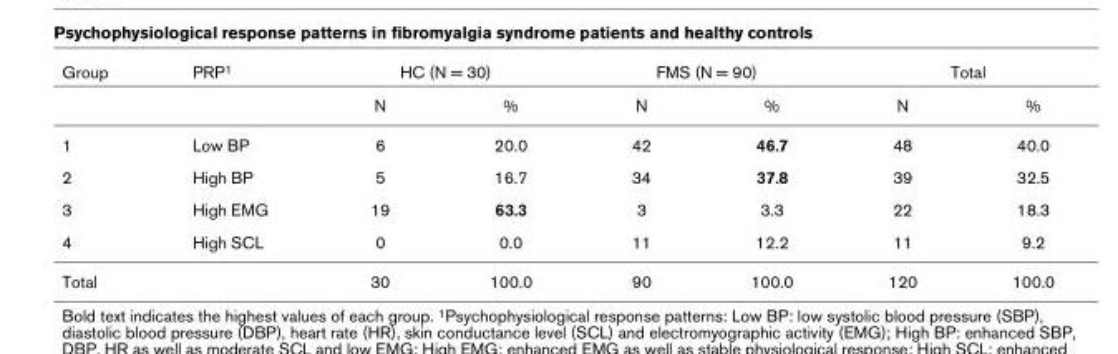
<table><thead><tr><td rowspan="2">Group</td><td rowspan="2">PRP1</td><td colspan="2">HC (N = 30)</td><td colspan="2">FMS (N = 90)</td><td colspan="2">Total</td></tr><tr><td>N</td><td>%</td><td>N</td><td>%</td><td>N</td><td>%</td></tr></thead><tbody><tr><td>1</td><td>Low BP</td><td>6</td><td>20.0</td><td>42</td><td>46.7</td><td>48</td><td>40.0</td></tr><tr><td>2</td><td>High BP</td><td>5</td><td>16.7</td><td>34</td><td>37.8</td><td>39</td><td>32.5</td></tr><tr><td>3</td><td>High EMG</td><td>19</td><td>63.3</td><td>3</td><td>3.3</td><td>22</td><td>18.3</td></tr><tr><td>4</td><td>High SCL</td><td>0</td><td>0.0</td><td>11</td><td>12.2</td><td>11</td><td>9.2</td></tr><tr><td>Total</td><td></td><td>30</td><td>100.0</td><td>90</td><td>100.0</td><td>120</td><td>100.0</td></tr></tbody></table>